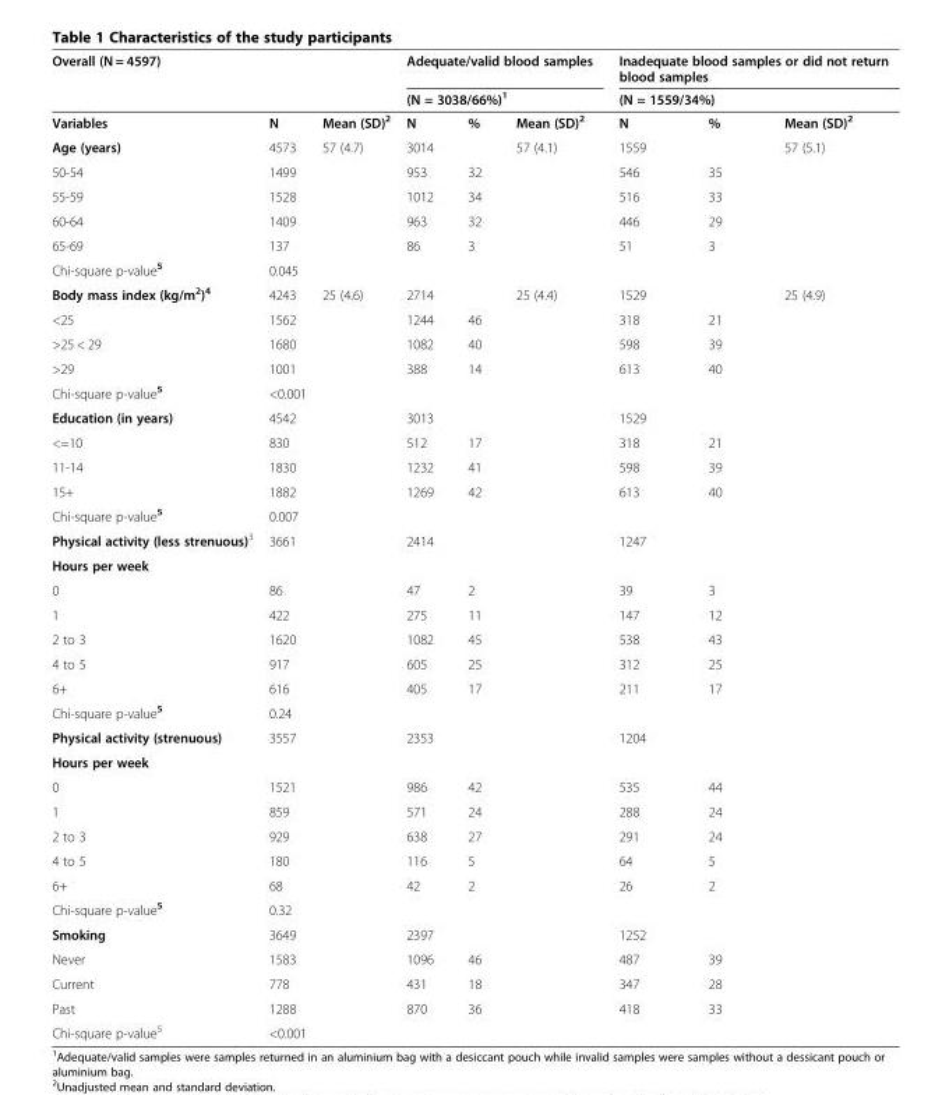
<table><thead><tr><td colspan="3">Overall (N = 4597)</td><td rowspan="2" colspan="3">Adequate/valid blood samples (N = 3038/66%)<sup>1</sup></td><td rowspan="2" colspan="3">Inadequate blood samples or did not return blood samples (N = 1559/34%)</td></tr><tr><td rowspan="2">Variables</td><td rowspan="2">N</td><td rowspan="2">Mean (SD)<sup>2</sup></td></tr><tr><td>N</td><td>%</td><td>Mean (SD)<sup>2</sup></td><td>N</td><td>%</td><td>Mean (SD)<sup>2</sup></td></tr></thead><tbody><tr><td>Age (years)</td><td>4573</td><td>57 (4.7)</td><td>3014</td><td></td><td>57 (4.1)</td><td>1559</td><td></td><td>57 (5.1)</td></tr><tr><td>50-54</td><td>1499</td><td></td><td>953</td><td>32</td><td></td><td>546</td><td>35</td><td></td></tr><tr><td>55-59</td><td>1528</td><td></td><td>1012</td><td>34</td><td></td><td>516</td><td>33</td><td></td></tr><tr><td>60-64</td><td>1409</td><td></td><td>963</td><td>32</td><td></td><td>446</td><td>29</td><td></td></tr><tr><td>65-69</td><td>137</td><td></td><td>86</td><td>3</td><td></td><td>51</td><td>3</td><td></td></tr><tr><td>Chi-square p-value<sup>5</sup></td><td>0.045</td><td></td><td></td><td></td><td></td><td></td><td></td><td></td></tr><tr><td>Body mass index (kg/m<sup>2</sup>)<sup>4</sup></td><td>4243</td><td>25 (4.6)</td><td>2714</td><td></td><td>25 (4.4)</td><td>1529</td><td></td><td>25 (4.9)</td></tr><tr><td>&lt;25</td><td>1562</td><td></td><td>1244</td><td>46</td><td></td><td>318</td><td>21</td><td></td></tr><tr><td>&gt;25 &lt; 29</td><td>1680</td><td></td><td>1082</td><td>40</td><td></td><td>598</td><td>39</td><td></td></tr><tr><td>&gt;29</td><td>1001</td><td></td><td>388</td><td>14</td><td></td><td>613</td><td>40</td><td></td></tr><tr><td>Chi-square p-value<sup>5</sup></td><td>&lt;0.001</td><td></td><td></td><td></td><td></td><td></td><td></td><td></td></tr><tr><td>Education (in years)</td><td>4542</td><td></td><td>3013</td><td></td><td></td><td>1529</td><td></td><td></td></tr><tr><td>&lt;=10</td><td>830</td><td></td><td>512</td><td>17</td><td></td><td>318</td><td>21</td><td></td></tr><tr><td>11-14</td><td>1830</td><td></td><td>1232</td><td>41</td><td></td><td>598</td><td>39</td><td></td></tr><tr><td>15+</td><td>1882</td><td></td><td>1269</td><td>42</td><td></td><td>613</td><td>40</td><td></td></tr><tr><td>Chi-square p-value<sup>5</sup></td><td>0.007</td><td></td><td></td><td></td><td></td><td></td><td></td><td></td></tr><tr><td>Physical activity (less strenuous)<sup>3</sup></td><td>3661</td><td></td><td>2414</td><td></td><td></td><td>1247</td><td></td><td></td></tr><tr><td colspan="9">Hours per week</td></tr><tr><td>0</td><td>86</td><td></td><td>47</td><td>2</td><td></td><td>39</td><td>3</td><td></td></tr><tr><td>1</td><td>422</td><td></td><td>275</td><td>11</td><td></td><td>147</td><td>12</td><td></td></tr><tr><td>2 to 3</td><td>1620</td><td></td><td>1082</td><td>45</td><td></td><td>538</td><td>43</td><td></td></tr><tr><td>4 to 5</td><td>917</td><td></td><td>605</td><td>25</td><td></td><td>312</td><td>25</td><td></td></tr><tr><td>6+</td><td>616</td><td></td><td>405</td><td>17</td><td></td><td>211</td><td>17</td><td></td></tr><tr><td>Chi-square p-value<sup>5</sup></td><td>0.24</td><td></td><td></td><td></td><td></td><td></td><td></td><td></td></tr><tr><td>Physical activity (strenuous)</td><td>3557</td><td></td><td>2353</td><td></td><td></td><td>1204</td><td></td><td></td></tr><tr><td colspan="9">Hours per week</td></tr><tr><td>0</td><td>1521</td><td></td><td>986</td><td>42</td><td></td><td>535</td><td>44</td><td></td></tr><tr><td>1</td><td>859</td><td></td><td>571</td><td>24</td><td></td><td>288</td><td>24</td><td></td></tr><tr><td>2 to 3</td><td>929</td><td></td><td>638</td><td>27</td><td></td><td>291</td><td>24</td><td></td></tr><tr><td>4 to 5</td><td>180</td><td></td><td>116</td><td>5</td><td></td><td>64</td><td>5</td><td></td></tr><tr><td>6+</td><td>68</td><td></td><td>42</td><td>2</td><td></td><td>26</td><td>2</td><td></td></tr><tr><td>Chi-square p-value<sup>5</sup></td><td>0.32</td><td></td><td></td><td></td><td></td><td></td><td></td><td></td></tr><tr><td>Smoking</td><td>3649</td><td></td><td>2397</td><td></td><td></td><td>1252</td><td></td><td></td></tr><tr><td>Never</td><td>1583</td><td></td><td>1096</td><td>46</td><td></td><td>487</td><td>39</td><td></td></tr><tr><td>Current</td><td>778</td><td></td><td>431</td><td>18</td><td></td><td>347</td><td>28</td><td></td></tr><tr><td>Past</td><td>1288</td><td></td><td>870</td><td>36</td><td></td><td>418</td><td>33</td><td></td></tr><tr><td>Chi-square p-value<sup>5</sup></td><td>&lt;0.001</td><td></td><td></td><td></td><td></td><td></td><td></td><td></td></tr></tbody></table>